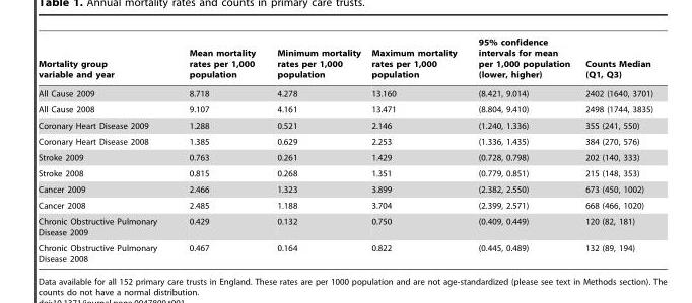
<table><thead><tr><td>Mortality group variable and year</td><td>Mean mortality rates per 1,000 population</td><td>Minimum mortality rates per 1,000 population</td><td>Maximum mortality rates per 1,000 population</td><td>95% confidence intervals for mean per 1,000 population (lower, higher)</td><td>Counts Median (Q1, Q3)</td></tr></thead><tbody><tr><td>All Cause 2009</td><td>8.718</td><td>4.278</td><td>13.160</td><td>(8.421, 9.014)</td><td>2402 (1640, 3701)</td></tr><tr><td>All Cause 2008</td><td>9.107</td><td>4.161</td><td>13.471</td><td>(8.804, 9.410)</td><td>2498 (1744, 3835)</td></tr><tr><td>Coronary Heart Disease 2009</td><td>1.288</td><td>0.521</td><td>2.146</td><td>(1.240, 1.336)</td><td>355 (241, 550)</td></tr><tr><td>Coronary Heart Disease 2008</td><td>1.385</td><td>0.629</td><td>2.253</td><td>(1.336, 1.435)</td><td>384 (270, 576)</td></tr><tr><td>Stroke 2009</td><td>0.763</td><td>0.261</td><td>1.429</td><td>(0.728, 0.798)</td><td>202 (140, 333)</td></tr><tr><td>Stroke 2008</td><td>0.815</td><td>0.268</td><td>1.351</td><td>(0.779, 0.851)</td><td>215 (148, 353)</td></tr><tr><td>Cancer 2009</td><td>2.466</td><td>1.323</td><td>3.899</td><td>(2.382, 2.550)</td><td>673 (450, 1002)</td></tr><tr><td>Cancer 2008</td><td>2.485</td><td>1.188</td><td>3.704</td><td>(2.399, 2.571)</td><td>668 (466, 1020)</td></tr><tr><td>Chronic Obstructive Pulmonary Disease 2009</td><td>0.429</td><td>0.132</td><td>0.750</td><td>(0.409, 0.449)</td><td>120 (82, 181)</td></tr><tr><td>Chronic Obstructive Pulmonary Disease 2008</td><td>0.467</td><td>0.164</td><td>0.822</td><td>(0.445, 0.489)</td><td>132 (89, 194)</td></tr></tbody></table>